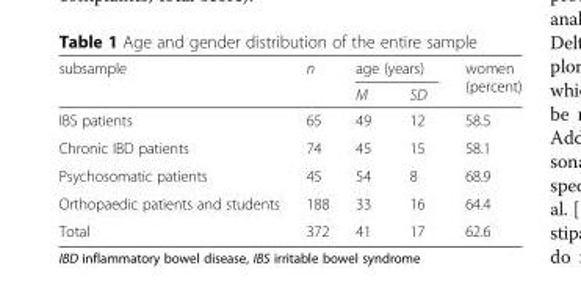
<table><thead><tr><td rowspan="2">subsample</td><td rowspan="2">n</td><td colspan="2">age (years)</td><td rowspan="2">women (percent)</td></tr><tr><td>M</td><td>SD</td></tr></thead><tbody><tr><td>IBS patients</td><td>65</td><td>49</td><td>12</td><td>58.5</td></tr><tr><td>Chronic IBD patients</td><td>74</td><td>45</td><td>15</td><td>58.1</td></tr><tr><td>Psychosomatic patients</td><td>45</td><td>54</td><td>8</td><td>68.9</td></tr><tr><td>Orthopaedic patients and students</td><td>188</td><td>33</td><td>16</td><td>64.4</td></tr><tr><td>Total</td><td>372</td><td>41</td><td>17</td><td>62.6</td></tr></tbody></table>